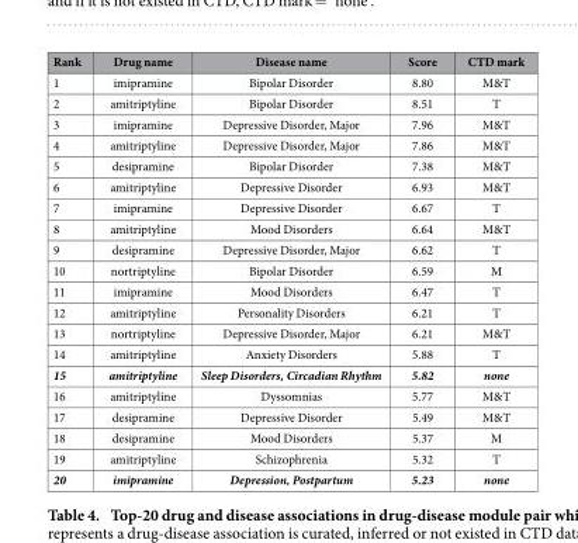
<table><thead><tr><td>Rank</td><td>Drug name</td><td>Disease name</td><td>Score</td><td>CTD mark</td></tr></thead><tbody><tr><td>1</td><td>imipramine</td><td>Bipolar Disorder</td><td>8.80</td><td>M&amp;T</td></tr><tr><td>2</td><td>amitriptyline</td><td>Bipolar Disorder</td><td>8.51</td><td>T</td></tr><tr><td>3</td><td>imipramine</td><td>Depressive Disorder, Major</td><td>7.96</td><td>M&amp;T</td></tr><tr><td>4</td><td>amitriptyline</td><td>Depressive Disorder, Major</td><td>7.86</td><td>M&amp;T</td></tr><tr><td>5</td><td>desipramine</td><td>Bipolar Disorder</td><td>7.38</td><td>M&amp;T</td></tr><tr><td>6</td><td>amitriptyline</td><td>Depressive Disorder</td><td>6.93</td><td>M&amp;T</td></tr><tr><td>7</td><td>imipramine</td><td>Depressive Disorder</td><td>6.67</td><td>T</td></tr><tr><td>8</td><td>amitriptyline</td><td>Mood Disorders</td><td>6.64</td><td>M&amp;T</td></tr><tr><td>9</td><td>desipramine</td><td>Depressive Disorder, Major</td><td>6.62</td><td>T</td></tr><tr><td>10</td><td>nortriptyline</td><td>Bipolar Disorder</td><td>6.59</td><td>M</td></tr><tr><td>11</td><td>imipramine</td><td>Mood Disorders</td><td>6.47</td><td>T</td></tr><tr><td>12</td><td>amitriptyline</td><td>Personality Disorders</td><td>6.21</td><td>T</td></tr><tr><td>13</td><td>nortriptyline</td><td>Depressive Disorder, Major</td><td>6.21</td><td>M&amp;T</td></tr><tr><td>14</td><td>amitriptyline</td><td>Anxiety Disorders</td><td>5.88</td><td>T</td></tr><tr><td>15</td><td>amitriptyline</td><td>Sleep Disorders, Circadian Rhythm</td><td>5.82</td><td>none</td></tr><tr><td>16</td><td>amitriptyline</td><td>Dyssomnias</td><td>5.77</td><td>M&amp;T</td></tr><tr><td>17</td><td>desipramine</td><td>Depressive Disorder</td><td>5.49</td><td>M&amp;T</td></tr><tr><td>18</td><td>desipramine</td><td>Mood Disorders</td><td>5.37</td><td>M</td></tr><tr><td>19</td><td>amitriptyline</td><td>Schizophrenia</td><td>5.32</td><td>T</td></tr><tr><td>20</td><td>imipramine</td><td>Depression, Postpartum</td><td>5.23</td><td>none</td></tr></tbody></table>